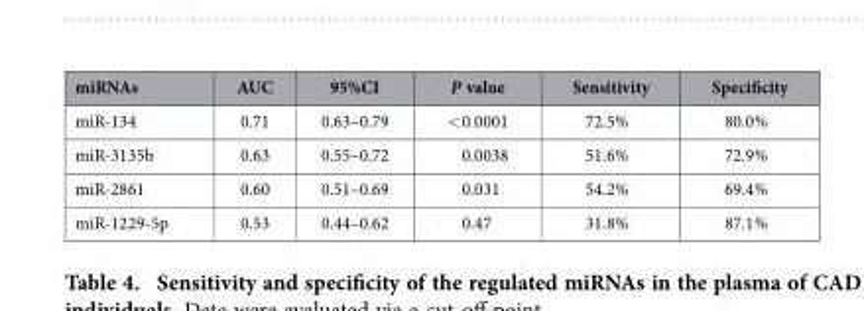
<table><thead><tr><td>miRNAs</td><td>AUC</td><td>95%CI</td><td>P value</td><td>Sensitivity</td><td>Specificity</td></tr></thead><tbody><tr><td>miR-134</td><td>0.71</td><td>0.63–0.79</td><td>&lt; 0.0001</td><td>72.5%</td><td>80.0%</td></tr><tr><td>miR-3135b</td><td>0.63</td><td>0.55–0.72</td><td>0.0038</td><td>51.6%</td><td>72.9%</td></tr><tr><td>miR-2861</td><td>0.60</td><td>0.51–0.69</td><td>0.031</td><td>54.2%</td><td>69.4%</td></tr><tr><td>miR-1229-5p</td><td>0.53</td><td>0.44–0.62</td><td>0.47</td><td>31.8%</td><td>87.1%</td></tr></tbody></table>